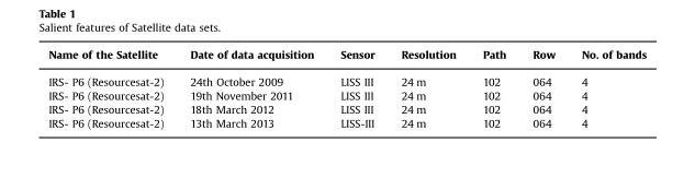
<table><thead><tr><td>Name of the Satellite</td><td>Date of data acquisition</td><td>Sensor</td><td>Resolution</td><td>Path</td><td>Row</td><td>No. of bands</td></tr></thead><tbody><tr><td>IRS- P6 (Resourcesat-2)</td><td>24th October 2009</td><td>LISS III</td><td>24 m</td><td>102</td><td>064</td><td>4</td></tr><tr><td>IRS- P6 (Resourcesat-2)</td><td>19th November 2011</td><td>LISS III</td><td>24 m</td><td>102</td><td>064</td><td>4</td></tr><tr><td>IRS- P6 (Resourcesat-2)</td><td>18th March 2012</td><td>LISS III</td><td>24 m</td><td>102</td><td>064</td><td>4</td></tr><tr><td>IRS- P6 (Resourcesat-2)</td><td>13th March 2013</td><td>LISS-III</td><td>24 m</td><td>102</td><td>064</td><td>4</td></tr></tbody></table>